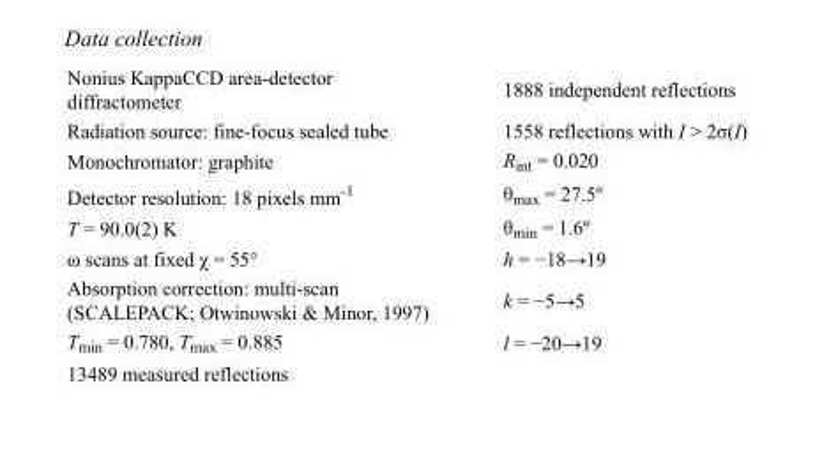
<table><tbody><tr><td>Nonius KappaCCD area-detector diffractometer</td><td>1888 independent reflections</td></tr><tr><td>Radiation source: fine-focus sealed tube</td><td>1558 reflections with I &gt; 2σ(I)</td></tr><tr><td>Monochromator: graphite</td><td>R<sub>int</sub> = 0.020</td></tr><tr><td>Detector resolution: 18 pixels mm<sup>-1</sup></td><td>θ<sub>max</sub> = 27.5º</td></tr><tr><td>T = 90.0(2) K</td><td>θ<sub>min</sub> = 1.6º</td></tr><tr><td>ω scans at fixed χ = 55°</td><td>h = −18→19</td></tr><tr><td>Absorption correction: multi-scan (SCALEPACK; Otwinowski &amp; Minor, 1997)</td><td>k = −5→5</td></tr><tr><td>T<sub>min</sub> = 0.780, T<sub>max</sub> = 0.885</td><td>l = −20→19</td></tr><tr><td>13489 measured reflections</td><td></td></tr></tbody></table>